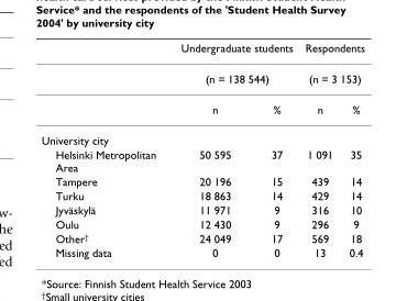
<table><thead><tr><td rowspan="3"></td><td rowspan="2" colspan="2">Undergraduate students (n = 138 544)</td><td rowspan="2" colspan="2">Respondents (n = 3 153)</td></tr><tr></tr><tr><td>n</td><td>%</td><td>n</td><td>%</td></tr></thead><tbody><tr><td colspan="5">University city</td></tr><tr><td>Helsinki Metropolitan Area</td><td>50 595</td><td>37</td><td>1 091</td><td>35</td></tr><tr><td>Tampere</td><td>20 196</td><td>15</td><td>439</td><td>14</td></tr><tr><td>Turku</td><td>18 863</td><td>14</td><td>429</td><td>14</td></tr><tr><td>Jyväskylä</td><td>11 971</td><td>9</td><td>316</td><td>10</td></tr><tr><td>Oulu</td><td>12 430</td><td>9</td><td>296</td><td>9</td></tr><tr><td>Other<sup>†</sup></td><td>24 049</td><td>17</td><td>569</td><td>18</td></tr><tr><td>Missing data</td><td>0</td><td>0</td><td>13</td><td>0.4</td></tr></tbody></table>